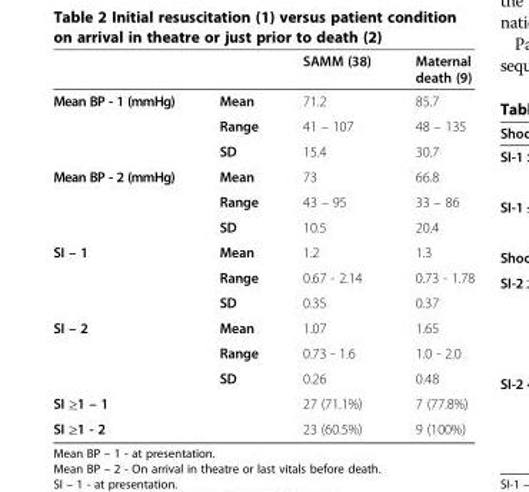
<table><thead><tr><td></td><td></td><td>SAMM (38)</td><td>Maternal death (9)</td></tr></thead><tbody><tr><td rowspan="3">Mean BP - 1 (mmHg)</td><td>Mean</td><td>71.2</td><td>85.7</td></tr><tr><td>Range</td><td>41 – 107</td><td>48 – 135</td></tr><tr><td>SD</td><td>15.4</td><td>30.7</td></tr><tr><td rowspan="3">Mean BP - 2 (mmHg)</td><td>Mean</td><td>73</td><td>66.8</td></tr><tr><td>Range</td><td>43 – 95</td><td>33 – 86</td></tr><tr><td>SD</td><td>10.5</td><td>20.4</td></tr><tr><td rowspan="3">SI – 1</td><td>Mean</td><td>1.2</td><td>1.3</td></tr><tr><td>Range</td><td>0.67 - 2.14</td><td>0.73 - 1.78</td></tr><tr><td>SD</td><td>0.35</td><td>0.37</td></tr><tr><td rowspan="3">SI – 2</td><td>Mean</td><td>1.07</td><td>1.65</td></tr><tr><td>Range</td><td>0.73 - 1.6</td><td>1.0 - 2.0</td></tr><tr><td>SD</td><td>0.26</td><td>0.48</td></tr><tr><td>SI ≥1 – 1</td><td></td><td>27 (71.1%)</td><td>7 (77.8%)</td></tr><tr><td>SI ≥1 - 2</td><td></td><td>23 (60.5%)</td><td>9 (100%)</td></tr></tbody></table>